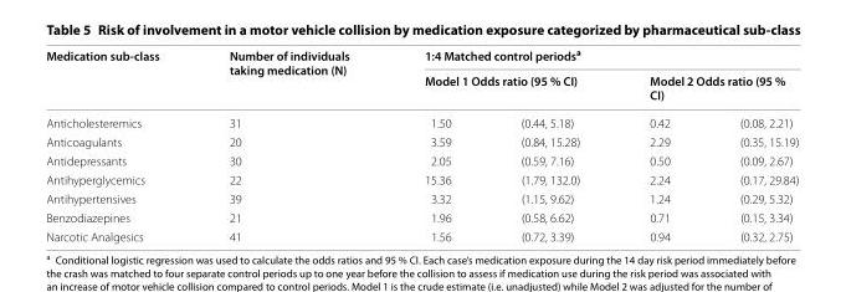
<table><thead><tr><td rowspan="3">Medication sub-class Anticholesteremics</td><td rowspan="3">Number of individuals taking medication (N) 31</td><td colspan="4">1:4 Matched control periods<sup>a</sup></td></tr><tr><td colspan="2">Model 1 Odds ratio (95 % CI)</td><td colspan="2">Model 2 Odds ratio (95 % CI)</td></tr><tr><td>1.50</td><td>(0.44, 5.18)</td><td>0.42</td><td>(0.08, 2.21)</td></tr></thead><tbody><tr><td>Anticoagulants</td><td>20</td><td>3.59</td><td>(0.84, 15.28)</td><td>2.29</td><td>(0.35, 15.19)</td></tr><tr><td>Antidepressants</td><td>30</td><td>2.05</td><td>(0.59, 7.16)</td><td>0.50</td><td>(0.09, 2.67)</td></tr><tr><td>Antihyperglycemics</td><td>22</td><td>15.36</td><td>(1.79, 132.0)</td><td>2.24</td><td>(0.17, 29.84)</td></tr><tr><td>Antihypertensives</td><td>39</td><td>3.32</td><td>(1.15, 9.62)</td><td>1.24</td><td>(0.29, 5.32)</td></tr><tr><td>Benzodiazepines</td><td>21</td><td>1.96</td><td>(0.58, 6.62)</td><td>0.71</td><td>(0.15, 3.34)</td></tr><tr><td>Narcotic Analgesics</td><td>41</td><td>1.56</td><td>(0.72, 3.39)</td><td>0.94</td><td>(0.32, 2.75)</td></tr></tbody></table>